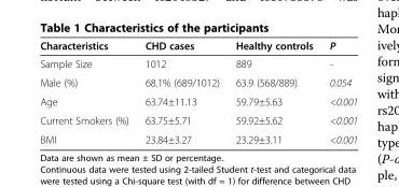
<table><thead><tr><td>Characteristics</td><td>CHD cases</td><td>Healthy controls</td><td>P</td></tr></thead><tbody><tr><td>Sample Size</td><td>1012</td><td>889</td><td>-</td></tr><tr><td>Male (%)</td><td>68.1% (689/1012)</td><td>63.9 (568/889)</td><td>0.054</td></tr><tr><td>Age</td><td>63.74±11.13</td><td>59.79±5.63</td><td>&lt;0.001</td></tr><tr><td>Current Smokers (%)</td><td>63.75±5.71</td><td>59.92±5.62</td><td>&lt;0.001</td></tr><tr><td>BMI</td><td>23.84±3.27</td><td>23.29±3.11</td><td>&lt;0.001</td></tr></tbody></table>